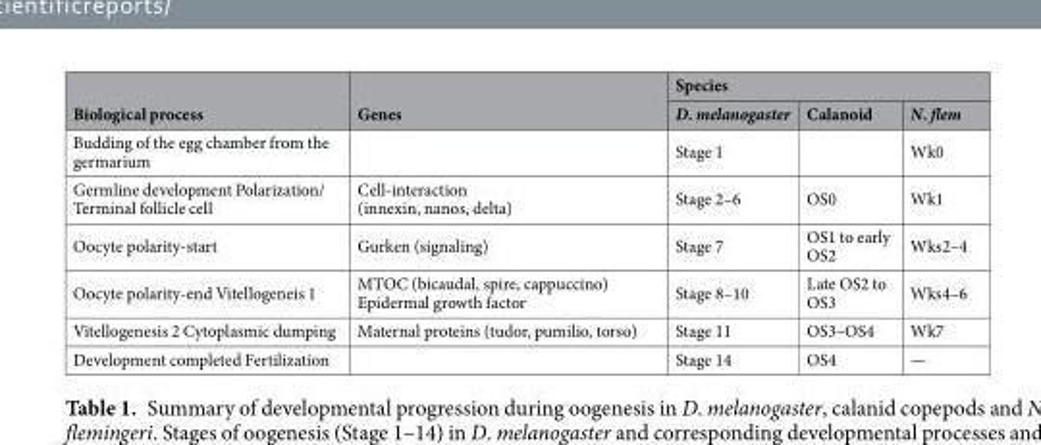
<table><thead><tr><td rowspan="2">Biological process</td><td rowspan="2">Genes</td><td colspan="3">Species</td></tr><tr><td>D. melanogaster</td><td>Calanoid</td><td>N. flem</td></tr></thead><tbody><tr><td>Budding of the egg chamber from the germarium</td><td></td><td>Stage 1</td><td></td><td>Wk0</td></tr><tr><td>Germline development Polarization/ Terminal follicle cell</td><td>Cell-interaction (innexin, nanos, delta)</td><td>Stage 2–6</td><td>OS0</td><td>Wk1</td></tr><tr><td>Oocyte polarity-start</td><td>Gurken (signaling)</td><td>Stage 7</td><td>OS1 to early OS2</td><td>Wks2–4</td></tr><tr><td>Oocyte polarity-end Vitellogeneis 1</td><td>MTOC (bicaudal, spire, cappuccino) Epidermal growth factor</td><td>Stage 8–10</td><td>Late OS2 to OS3</td><td>Wks4–6</td></tr><tr><td>Vitellogenesis 2 Cytoplasmic dumping</td><td>Maternal proteins (tudor, pumilio, torso)</td><td>Stage 11</td><td>OS3–OS4</td><td>Wk7</td></tr><tr><td>Development completed Fertilization</td><td></td><td>Stage 14</td><td>OS4</td><td>—</td></tr></tbody></table>